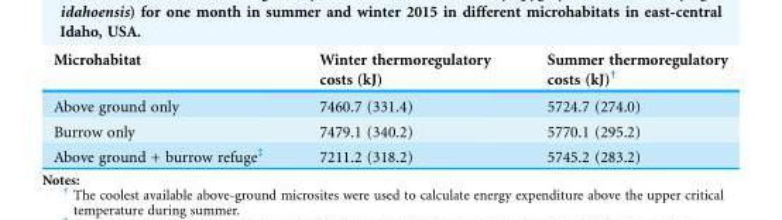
<table><thead><tr><td>Microhabitat</td><td>Winter thermoregulatory costs (kJ)</td><td>Summer thermoregulatory costs (kJ)<sup>†</sup></td></tr></thead><tbody><tr><td>Above ground only</td><td>7460.7 (331.4)</td><td>5724.7 (274.0)</td></tr><tr><td>Burrow only</td><td>7479.1 (340.2)</td><td>5770.1 (295.2)</td></tr><tr><td>Above ground + burrow refuge<sup>‡</sup></td><td>7211.2 (318.2)</td><td>5745.2 (283.2)</td></tr></tbody></table>